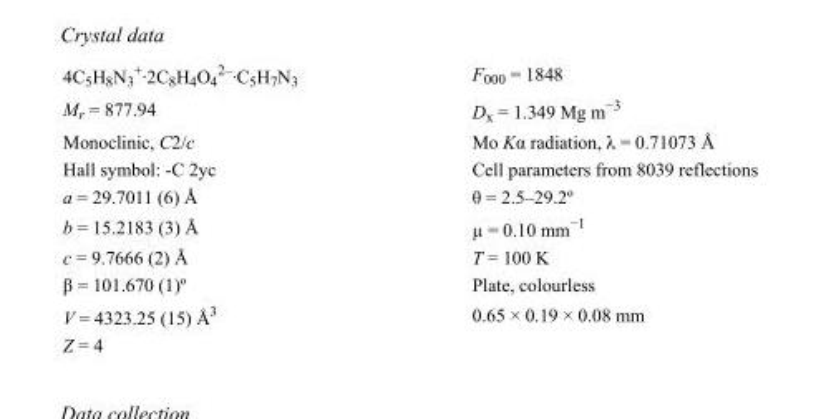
<table><tbody><tr><td>4C<sub>5</sub>H<sub>8</sub>N<sub>3</sub> <sup>+</sup>·2C<sub>8</sub>H<sub>4</sub>O<sub>4</sub> <sup>2–</sup>·C<sub>5</sub>H<sub>7</sub>N<sub>3</sub></td><td>F000 = 1848</td></tr><tr><td>M<sub>r</sub> = 877.94</td><td>D<sub>x</sub> = 1.349 Mg m<sup>−3</sup></td></tr><tr><td>Monoclinic, C2/c</td><td>Mo Kα radiation, λ = 0.71073 Å</td></tr><tr><td>Hall symbol: -C 2yc</td><td>Cell parameters from 8039 reflections</td></tr><tr><td>a = 29.7011 (6) Å</td><td>θ = 2.5–29.2º</td></tr><tr><td>b = 15.2183 (3) Å</td><td>µ = 0.10 mm<sup>−1</sup></td></tr><tr><td>c = 9.7666 (2) Å</td><td>T = 100 K</td></tr><tr><td>β = 101.670 (1)º</td><td>Plate, colourless</td></tr><tr><td>V = 4323.25 (15) Å<sup>3</sup></td><td>0.65 × 0.19 × 0.08 mm</td></tr><tr><td>Z = 4</td><td></td></tr></tbody></table>